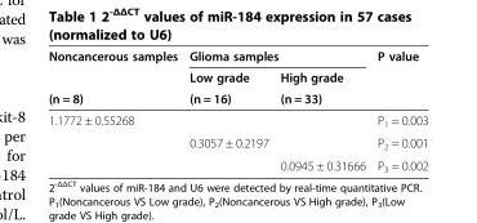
<table><thead><tr><td rowspan="3">Noncancerous samples (n = 8)</td><td colspan="2">Glioma samples</td><td rowspan="3">P value</td></tr><tr><td rowspan="2">Low grade (n = 16)</td><td rowspan="2">High grade (n = 33)</td></tr><tr></tr></thead><tbody><tr><td rowspan="3">1.1772 ± 0.55268</td><td></td><td></td><td>P<sub>1</sub> = 0.003</td></tr><tr><td>0.3057 ± 0.2197</td><td></td><td>P<sub>2</sub> = 0.001</td></tr><tr><td></td><td>0.0945 ± 0.31666</td><td>P<sub>3</sub> = 0.002</td></tr></tbody></table>